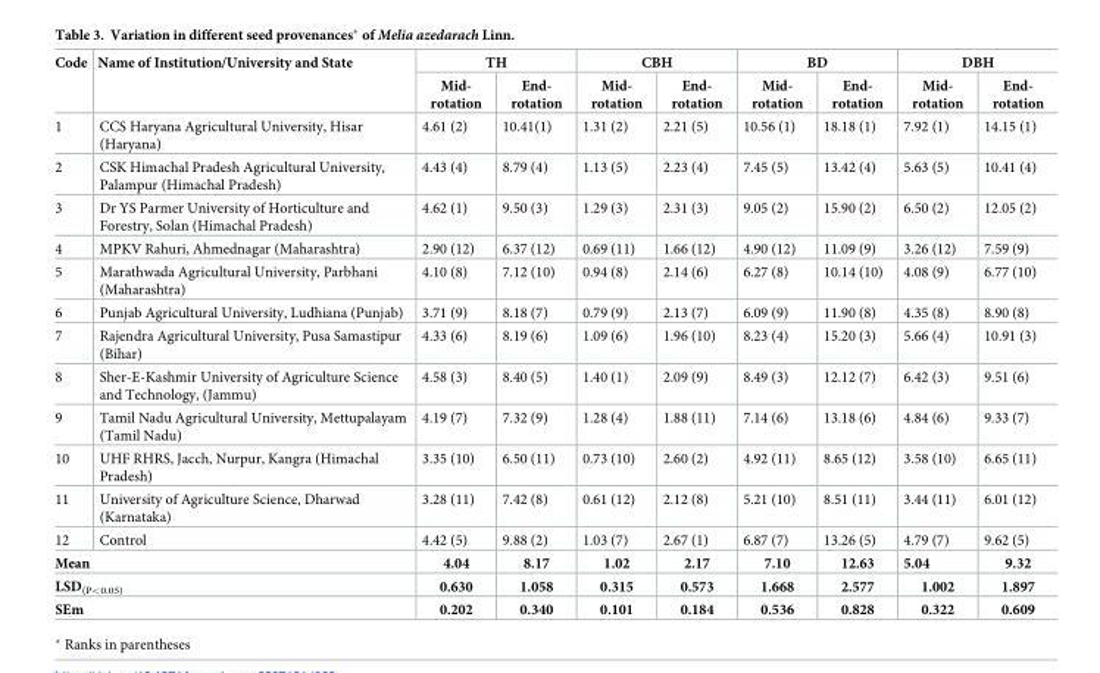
<table><thead><tr><td rowspan="2">Code</td><td rowspan="2">Name of Institution/University and State</td><td colspan="2">TH</td><td colspan="2">CBH</td><td colspan="2">BD</td><td colspan="2">DBH</td></tr><tr><td>Mid- rotation</td><td>End- rotation</td><td>Mid- rotation</td><td>End- rotation</td><td>Mid- rotation</td><td>End- rotation</td><td>Mid- rotation</td><td>End- rotation</td></tr></thead><tbody><tr><td>1</td><td>CCS Haryana Agricultural University, Hisar (Haryana)</td><td>4.61 (2)</td><td>10.41(1)</td><td>1.31 (2)</td><td>2.21 (5)</td><td>10.56 (1)</td><td>18.18 (1)</td><td>7.92 (1)</td><td>14.15 (1)</td></tr><tr><td>2</td><td>CSK Himachal Pradesh Agricultural University, Palampur (Himachal Pradesh)</td><td>4.43 (4)</td><td>8.79 (4)</td><td>1.13 (5)</td><td>2.23 (4)</td><td>7.45 (5)</td><td>13.42 (4)</td><td>5.63 (5)</td><td>10.41 (4)</td></tr><tr><td>3</td><td>Dr YS Parmer University of Horticulture and Forestry, Solan (Himachal Pradesh)</td><td>4.62 (1)</td><td>9.50 (3)</td><td>1.29 (3)</td><td>2.31 (3)</td><td>9.05 (2)</td><td>15.90 (2)</td><td>6.50 (2)</td><td>12.05 (2)</td></tr><tr><td>4</td><td>MPKV Rahuri, Ahmednagar (Maharashtra)</td><td>2.90 (12)</td><td>6.37 (12)</td><td>0.69 (11)</td><td>1.66 (12)</td><td>4.90 (12)</td><td>11.09 (9)</td><td>3.26 (12)</td><td>7.59 (9)</td></tr><tr><td>5</td><td>Marathwada Agricultural University, Parbhani (Maharashtra)</td><td>4.10 (8)</td><td>7.12 (10)</td><td>0.94 (8)</td><td>2.14 (6)</td><td>6.27 (8)</td><td>10.14 (10)</td><td>4.08 (9)</td><td>6.77 (10)</td></tr><tr><td>6</td><td>Punjab Agricultural University, Ludhiana (Punjab)</td><td>3.71 (9)</td><td>8.18 (7)</td><td>0.79 (9)</td><td>2.13 (7)</td><td>6.09 (9)</td><td>11.90 (8)</td><td>4.35 (8)</td><td>8.90 (8)</td></tr><tr><td>7</td><td>Rajendra Agricultural University, Pusa Samastipur (Bihar)</td><td>4.33 (6)</td><td>8.19 (6)</td><td>1.09 (6)</td><td>1.96 (10)</td><td>8.23 (4)</td><td>15.20 (3)</td><td>5.66 (4)</td><td>10.91 (3)</td></tr><tr><td>8</td><td>Sher-E-Kashmir University of Agriculture Science and Technology, (Jammu)</td><td>4.58 (3)</td><td>8.40 (5)</td><td>1.40 (1)</td><td>2.09 (9)</td><td>8.49 (3)</td><td>12.12 (7)</td><td>6.42 (3)</td><td>9.51 (6)</td></tr><tr><td>9</td><td>Tamil Nadu Agricultural University, Mettupalayam (Tamil Nadu)</td><td>4.19 (7)</td><td>7.32 (9)</td><td>1.28 (4)</td><td>1.88 (11)</td><td>7.14 (6)</td><td>13.18 (6)</td><td>4.84 (6)</td><td>9.33 (7)</td></tr><tr><td>10</td><td>UHF RHRS, Jacch, Nurpur, Kangra (Himachal Pradesh)</td><td>3.35 (10)</td><td>6.50 (11)</td><td>0.73 (10)</td><td>2.60 (2)</td><td>4.92 (11)</td><td>8.65 (12)</td><td>3.58 (10)</td><td>6.65 (11)</td></tr><tr><td>11</td><td>University of Agriculture Science, Dharwad (Karnataka)</td><td>3.28 (11)</td><td>7.42 (8)</td><td>0.61 (12)</td><td>2.12 (8)</td><td>5.21 (10)</td><td>8.51 (11)</td><td>3.44 (11)</td><td>6.01 (12)</td></tr><tr><td>12</td><td>Control</td><td>4.42 (5)</td><td>9.88 (2)</td><td>1.03 (7)</td><td>2.67 (1)</td><td>6.87 (7)</td><td>13.26 (5)</td><td>4.79 (7)</td><td>9.62 (5)</td></tr><tr><td colspan="2">Mean</td><td>4.04</td><td>8.17</td><td>1.02</td><td>2.17</td><td>7.10</td><td>12.63</td><td>5.04</td><td>9.32</td></tr><tr><td colspan="2">LSD<sub>(P&lt;0.05)</sub></td><td>0.630</td><td>1.058</td><td>0.315</td><td>0.573</td><td>1.668</td><td>2.577</td><td>1.002</td><td>1.897</td></tr><tr><td colspan="2">SEm</td><td>0.202</td><td>0.340</td><td>0.101</td><td>0.184</td><td>0.536</td><td>0.828</td><td>0.322</td><td>0.609</td></tr></tbody></table>